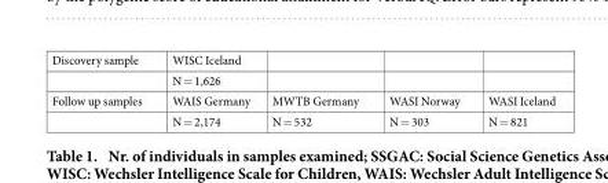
<table><tbody><tr><td rowspan="2">Discovery sample</td><td>WISC Iceland</td><td></td><td></td><td></td></tr><tr><td>N = 1,626</td><td></td><td></td><td></td></tr><tr><td rowspan="2">Follow up samples</td><td>WAIS Germany</td><td>MWTB Germany</td><td>WASI Norway</td><td>WASI Iceland</td></tr><tr><td>N = 2,174</td><td>N = 532</td><td>N = 303</td><td>N = 821</td></tr></tbody></table>